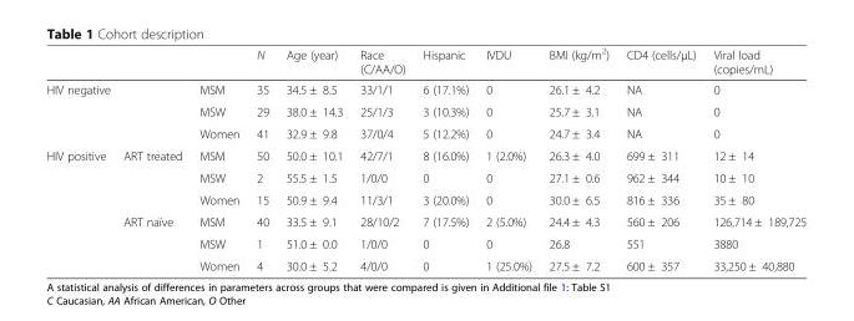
<table><thead><tr><td></td><td></td><td></td><td>N</td><td>Age (year)</td><td>Race (C/AA/O)</td><td>Hispanic</td><td>IVDU</td><td>BMI (kg/m<sup>2</sup>)</td><td>CD4 (cells/μL)</td><td>Viral load (copies/mL)</td></tr></thead><tbody><tr><td rowspan="3" colspan="2">HIV negative</td><td>MSM</td><td>35</td><td>34.5 ± 8.5</td><td>33/1/1</td><td>6 (17.1%)</td><td>0</td><td>26.1 ± 4.2</td><td>NA</td><td>0</td></tr><tr><td>MSW</td><td>29</td><td>38.0 ± 14.3</td><td>25/1/3</td><td>3 (10.3%)</td><td>0</td><td>25.7 ± 3.1</td><td>NA</td><td>0</td></tr><tr><td>Women</td><td>41</td><td>32.9 ± 9.8</td><td>37/0/4</td><td>5 (12.2%)</td><td>0</td><td>24.7 ± 3.4</td><td>NA</td><td>0</td></tr><tr><td rowspan="6">HIV positive</td><td rowspan="3">ART treated</td><td>MSM</td><td>50</td><td>50.0 ± 10.1</td><td>42/7/1</td><td>8 (16.0%)</td><td>1 (2.0%)</td><td>26.3 ± 4.0</td><td>699 ± 311</td><td>12 ± 14</td></tr><tr><td>MSW</td><td>2</td><td>55.5 ± 1.5</td><td>1/0/0</td><td>0</td><td>0</td><td>27.1 ± 0.6</td><td>962 ± 344</td><td>10 ± 10</td></tr><tr><td>Women</td><td>15</td><td>50.9 ± 9.4</td><td>11/3/1</td><td>3 (20.0%)</td><td>0</td><td>30.0 ± 6.5</td><td>816 ± 336</td><td>35 ± 80</td></tr><tr><td rowspan="3">ART naïve</td><td>MSM</td><td>40</td><td>33.5 ± 9.1</td><td>28/10/2</td><td>7 (17.5%)</td><td>2 (5.0%)</td><td>24.4 ± 4.3</td><td>560 ± 206</td><td>126,714 ± 189,725</td></tr><tr><td>MSW</td><td>1</td><td>51.0 ± 0.0</td><td>1/0/0</td><td>0</td><td>0</td><td>26.8</td><td>551</td><td>3880</td></tr><tr><td>Women</td><td>4</td><td>30.0 ± 5.2</td><td>4/0/0</td><td>0</td><td>1 (25.0%)</td><td>27.5 ± 7.2</td><td>600 ± 357</td><td>33,250 ± 40,880</td></tr></tbody></table>